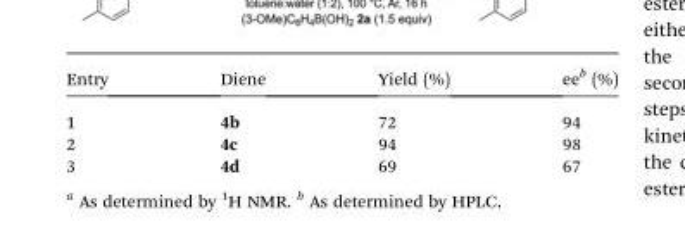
<table><thead><tr><td>Entry</td><td>Diene</td><td>Yield (%)</td><td>ee<sup>b</sup> (%)</td></tr></thead><tbody><tr><td>1</td><td>4b</td><td>72</td><td>94</td></tr><tr><td>2</td><td>4c</td><td>94</td><td>98</td></tr><tr><td>3</td><td>4d</td><td>69</td><td>67</td></tr></tbody></table>